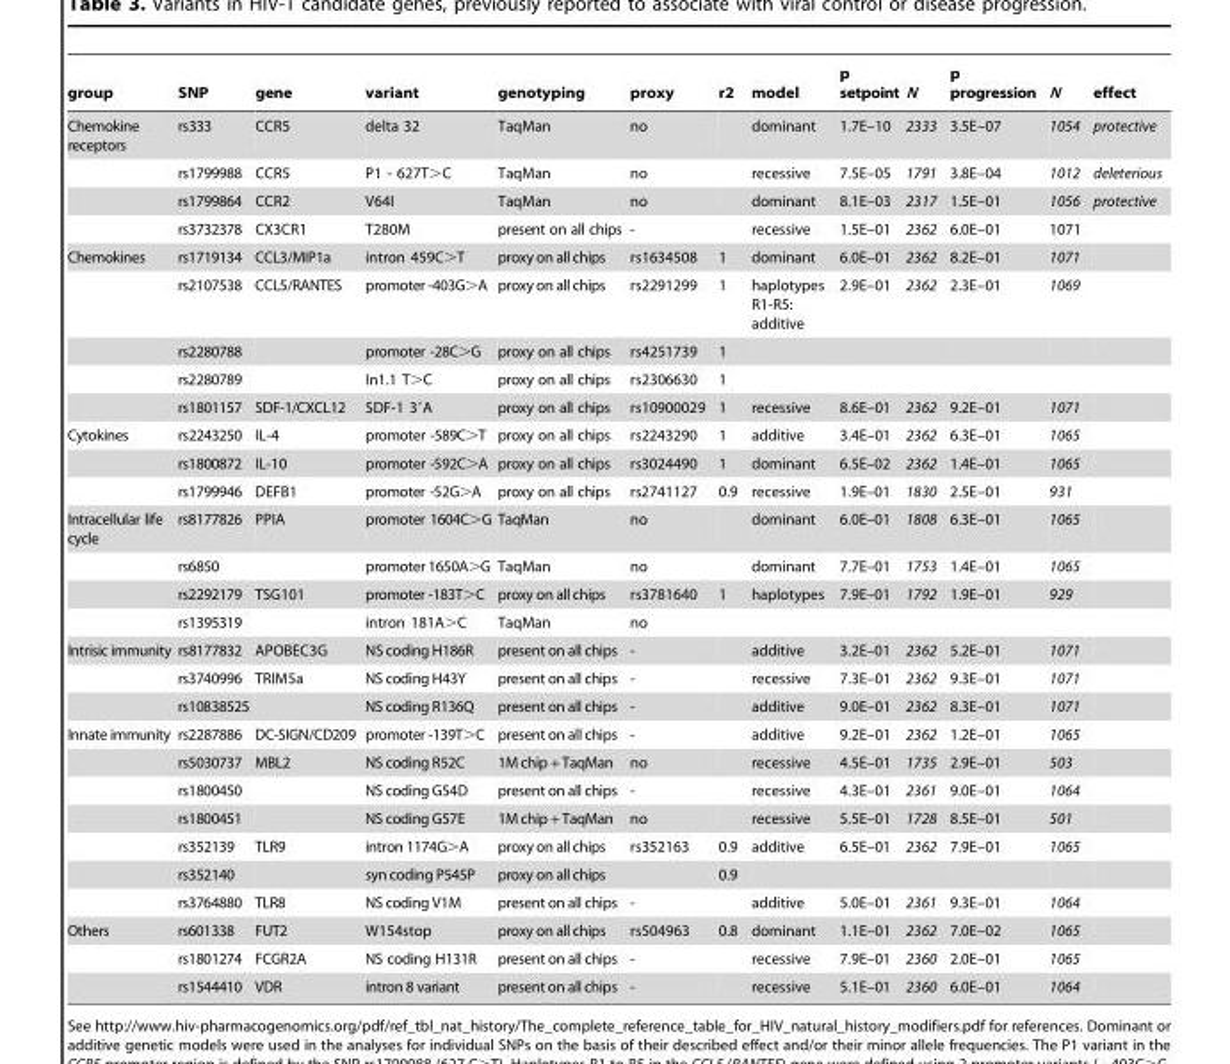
<table><thead><tr><td>group</td><td>SNP</td><td>gene</td><td>variant</td><td>genotyping</td><td>proxy</td><td>r2</td><td>model</td><td>p setpoint</td><td>N</td><td>p progression</td><td>N</td><td>effect</td></tr></thead><tbody><tr><td rowspan="4">Chemokine receptors</td><td>rs333</td><td>CCR5</td><td>delta 32</td><td>TaqMan</td><td>no</td><td></td><td>dominant</td><td>1.7E–10</td><td>2333</td><td>3.5E–07</td><td>1054</td><td>protective</td></tr><tr><td>rs1799988</td><td>CCR5</td><td>P1 - 627T&gt;C</td><td>TaqMan</td><td>no</td><td></td><td>recessive</td><td>7.5E–05</td><td>1791</td><td>3.8E–04</td><td>1012</td><td>deleterious</td></tr><tr><td>rs1799864</td><td>CCR2</td><td>V64I</td><td>TaqMan</td><td>no</td><td></td><td>dominant</td><td>8.1E–03</td><td>2317</td><td>1.5E–01</td><td>1056</td><td>protective</td></tr><tr><td>rs3732378</td><td>CX3CR1</td><td>T280M</td><td>present on all chips</td><td>-</td><td></td><td>recessive</td><td>1.5E–01</td><td>2362</td><td>6.0E–01</td><td>1071</td><td></td></tr><tr><td rowspan="5">Chemokines</td><td>rs1719134</td><td>CCL3/MIP1a</td><td>intron 459C&gt;T</td><td>proxy on all chips</td><td>rs1634508</td><td>1</td><td>dominant</td><td>6.0E–01</td><td>2362</td><td>8.2E–01</td><td>1071</td><td></td></tr><tr><td>rs2107538</td><td>CCL5/RANTES</td><td>promoter -403G&gt;A</td><td>proxy on all chips</td><td>rs2291299</td><td>1</td><td>haplotypes R1-R5: additive</td><td>2.9E–01</td><td>2362</td><td>2.3E–01</td><td>1069</td><td></td></tr><tr><td>rs2280788</td><td></td><td>promoter -28C&gt;G</td><td>proxy on all chips</td><td>rs4251739</td><td>1</td><td></td><td></td><td></td><td></td><td></td><td></td></tr><tr><td>rs2280789</td><td></td><td>In1.1 T&gt;C</td><td>proxy on all chips</td><td>rs2306630</td><td>1</td><td></td><td></td><td></td><td></td><td></td><td></td></tr><tr><td>rs1801157</td><td>SDF-1/CXCL12</td><td>SDF-1 3′A</td><td>proxy on all chips</td><td>rs10900029</td><td>1</td><td>recessive</td><td>8.6E–01</td><td>2362</td><td>9.2E–01</td><td>1071</td><td></td></tr><tr><td rowspan="3">Cytokines</td><td>rs2243250</td><td>IL-4</td><td>promoter -589C&gt;T</td><td>proxy on all chips</td><td>rs2243290</td><td>1</td><td>additive</td><td>3.4E–01</td><td>2362</td><td>6.3E–01</td><td>1065</td><td></td></tr><tr><td>rs1800872</td><td>IL-10</td><td>promoter -592C&gt;A</td><td>proxy on all chips</td><td>rs3024490</td><td>1</td><td>dominant</td><td>6.5E–02</td><td>2362</td><td>1.4E–01</td><td>1065</td><td></td></tr><tr><td>rs1799946</td><td>DEFB1</td><td>promoter -52G&gt;A</td><td>proxy on all chips</td><td>rs2741127</td><td>0.9</td><td>recessive</td><td>1.9E–01</td><td>1830</td><td>2.5E–01</td><td>931</td><td></td></tr><tr><td rowspan="4">Intracellular life cycle</td><td>rs8177826</td><td>PPIA</td><td>promoter 1604C&gt;G</td><td>TaqMan</td><td>no</td><td></td><td>dominant</td><td>6.0E–01</td><td>1808</td><td>6.3E–01</td><td>1065</td><td></td></tr><tr><td>rs6850</td><td></td><td>promoter 1650A&gt;G</td><td>TaqMan</td><td>no</td><td></td><td>dominant</td><td>7.7E–01</td><td>1753</td><td>1.4E–01</td><td>1065</td><td></td></tr><tr><td>rs2292179</td><td>TSG101</td><td>promoter -183T&gt;C</td><td>proxy on all chips</td><td>rs3781640</td><td>1</td><td>haplotypes</td><td>7.9E–01</td><td>1792</td><td>1.9E–01</td><td>929</td><td></td></tr><tr><td>rs1395319</td><td></td><td>intron 181A&gt;C</td><td>TaqMan</td><td>no</td><td></td><td></td><td></td><td></td><td></td><td></td><td></td></tr><tr><td rowspan="3">Intrisic immunity</td><td>rs8177832</td><td>APOBEC3G</td><td>NS coding H186R</td><td>present on all chips</td><td>-</td><td></td><td>additive</td><td>3.2E–01</td><td>2362</td><td>5.2E–01</td><td>1071</td><td></td></tr><tr><td>rs3740996</td><td>TRIM5a</td><td>NS coding H43Y</td><td>present on all chips</td><td>-</td><td></td><td>recessive</td><td>7.3E–01</td><td>2362</td><td>9.3E–01</td><td>1071</td><td></td></tr><tr><td>rs10838525</td><td></td><td>NS coding R136Q</td><td>present on all chips</td><td>-</td><td></td><td>additive</td><td>9.0E–01</td><td>2362</td><td>8.3E–01</td><td>1071</td><td></td></tr><tr><td rowspan="7">Innate immunity</td><td>rs2287886</td><td>DC-SIGN/CD209</td><td>promoter -139T&gt;C</td><td>present on all chips</td><td>-</td><td></td><td>additive</td><td>9.2E–01</td><td>2362</td><td>1.2E–01</td><td>1065</td><td></td></tr><tr><td>rs5030737</td><td>MBL2</td><td>NS coding R52C</td><td>1M chip + TaqMan</td><td>no</td><td></td><td>recessive</td><td>4.5E–01</td><td>1735</td><td>2.9E–01</td><td>503</td><td></td></tr><tr><td>rs1800450</td><td></td><td>NS coding G54D</td><td>present on all chips</td><td>-</td><td></td><td>recessive</td><td>4.3E–01</td><td>2361</td><td>9.0E–01</td><td>1064</td><td></td></tr><tr><td>rs1800451</td><td></td><td>NS coding G57E</td><td>1M chip + TaqMan</td><td>no</td><td></td><td>recessive</td><td>5.5E–01</td><td>1728</td><td>8.5E–01</td><td>501</td><td></td></tr><tr><td>rs352139</td><td>TLR9</td><td>intron 1174G&gt;A</td><td>proxy on all chips</td><td>rs352163</td><td>0.9</td><td>additive</td><td>6.5E–01</td><td>2362</td><td>7.9E–01</td><td>1065</td><td></td></tr><tr><td>rs352140</td><td></td><td>syn coding P545P</td><td>proxy on all chips</td><td></td><td>0.9</td><td></td><td></td><td></td><td></td><td></td><td></td></tr><tr><td>rs3764880</td><td>TLR8</td><td>NS coding V1M</td><td>present on all chips</td><td>-</td><td></td><td>additive</td><td>5.0E–01</td><td>2361</td><td>9.3E–01</td><td>1064</td><td></td></tr><tr><td rowspan="3">Others</td><td>rs601338</td><td>FUT2</td><td>W154stop</td><td>proxy on all chips</td><td>rs504963</td><td>0.8</td><td>dominant</td><td>1.1E–01</td><td>2362</td><td>7.0E–02</td><td>1065</td><td></td></tr><tr><td>rs1801274</td><td>FCGR2A</td><td>NS coding H131R</td><td>present on all chips</td><td>-</td><td></td><td>recessive</td><td>7.9E–01</td><td>2360</td><td>2.0E–01</td><td>1065</td><td></td></tr><tr><td>rs1544410</td><td>VDR</td><td>intron 8 variant</td><td>present on all chips</td><td>-</td><td></td><td>recessive</td><td>5.1E–01</td><td>2360</td><td>6.0E–01</td><td>1064</td><td></td></tr></tbody></table>